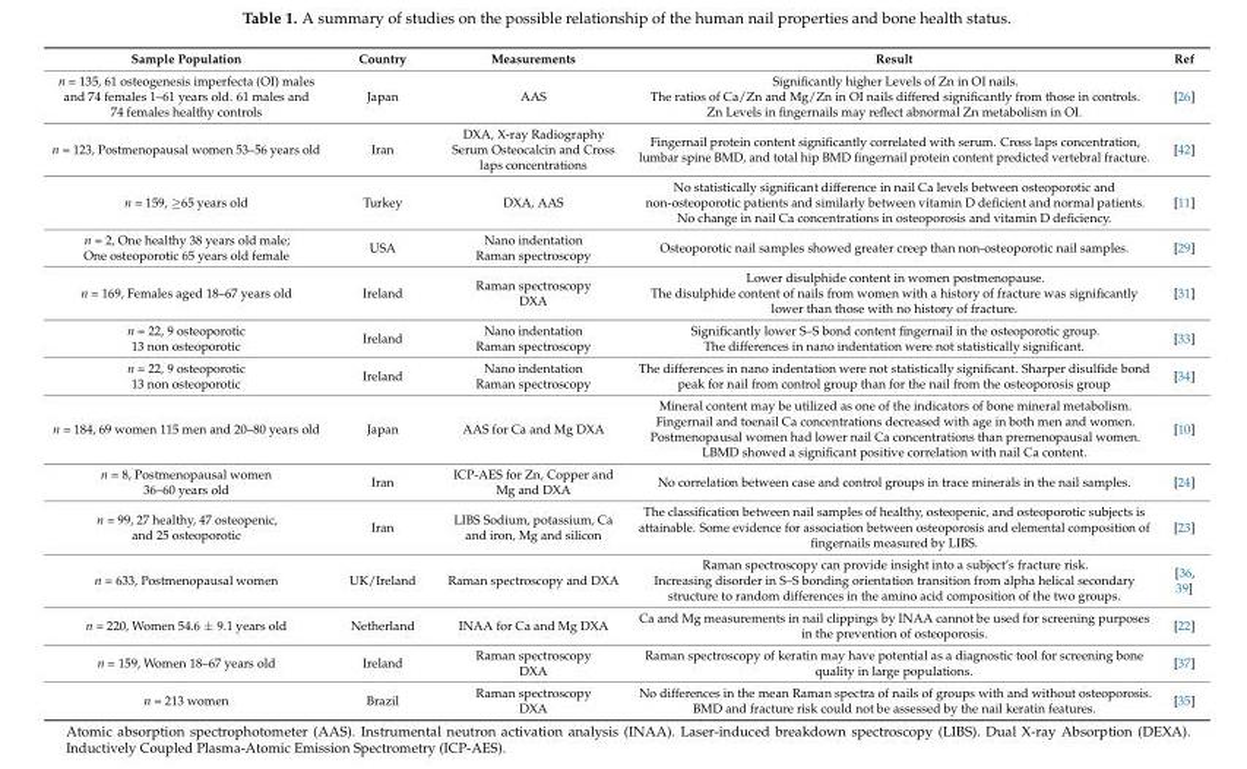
<table><thead><tr><td>Sample Population</td><td>Country</td><td>Measurements</td><td>Result</td><td>Ref</td></tr></thead><tbody><tr><td>n = 135, 61 osteogenesis imperfecta (OI) males and 74 females 1–61 years old. 61 males and 74 females healthy controls</td><td>Japan</td><td>AAS</td><td>Significantly higher Levels of Zn in OI nails. The ratios of Ca/Zn and Mg/Zn in OI nails differed significantly from those in controls. Zn Levels in fingernails may reflect abnormal Zn metabolism in OI.</td><td>[26]</td></tr><tr><td>n = 123, Postmenopausal women 53–56 years old</td><td>Iran</td><td>DXA, X-ray Radiography Serum Osteocalcin and Cross laps concentrations</td><td>Fingernail protein content significantly correlated with serum. Cross laps concentration, lumbar spine BMD, and total hip BMD fingernail protein content predicted vertebral fracture.</td><td>[42]</td></tr><tr><td>n = 159, ≥65 years old</td><td>Turkey</td><td>DXA, AAS</td><td>No statistically significant difference in nail Ca levels between osteoporotic and non-osteoporotic patients and similarly between vitamin D deficient and normal patients. No change in nail Ca concentrations in osteoporosis and vitamin D deficiency.</td><td>[11]</td></tr><tr><td>n = 2, One healthy 38 years old male; One osteoporotic 65 years old female</td><td>USA</td><td>Nano indentation Raman spectroscopy</td><td>Osteoporotic nail samples showed greater creep than non-osteoporotic nail samples.</td><td>[29]</td></tr><tr><td>n = 169, Females aged 18–67 years old</td><td>Ireland</td><td>Raman spectroscopy DXA</td><td>Lower disulphide content in women postmenopause. The disulphide content of nails from women with a history of fracture was significantly lower than those with no history of fracture.</td><td>[31]</td></tr><tr><td>n = 22, 9 osteoporotic 13 non osteoporotic</td><td>Ireland</td><td>Nano indentation Raman spectroscopy</td><td>Significantly lower S–S bond content fingernail in the osteoporotic group. The differences in nano indentation were not statistically significant.</td><td>[33]</td></tr><tr><td>n = 22, 9 osteoporotic 13 non osteoporotic</td><td>Ireland</td><td>Nano indentation Raman spectroscopy</td><td>The differences in nano indentation were not statistically significant. Sharper disulfide bond peak for nail from control group than for the nail from the osteoporosis group</td><td>[34]</td></tr><tr><td>n = 184, 69 women 115 men and 20–80 years old</td><td>Japan</td><td>AAS for Ca and Mg DXA</td><td>Mineral content may be utilized as one of the indicators of bone mineral metabolism. Fingernail and toenail Ca concentrations decreased with age in both men and women. Postmenopausal women had lower nail Ca concentrations than premenopausal women. LBMD showed a significant positive correlation with nail Ca content.</td><td>[10]</td></tr><tr><td>n = 8, Postmenopausal women 36–60 years old</td><td>Iran</td><td>ICP-AES for Zn, Copper and Mg and DXA</td><td>No correlation between case and control groups in trace minerals in the nail samples.</td><td>[24]</td></tr><tr><td>n = 99, 27 healthy, 47 osteopenic, and 25 osteoporotic</td><td>Iran</td><td>LIBS Sodium, potassium, Ca and iron, Mg and silicon</td><td>The classification between nail samples of healthy, osteopenic, and osteoporotic subjects is attainable. Some evidence for association between osteoporosis and elemental composition of fingernails measured by LIBS.</td><td>[23]</td></tr><tr><td>n = 633, Postmenopausal women</td><td>UK/Ireland</td><td>Raman spectroscopy and DXA</td><td>Raman spectroscopy can provide insight into a subject’s fracture risk. Increasing disorder in S–S bonding orientation transition from alpha helical secondary structure to random differences in the amino acid composition of the two groups.</td><td>[36, 39]</td></tr><tr><td>n = 220, Women 54.6 ± 9.1 years old</td><td>Netherland</td><td>INAA for Ca and Mg DXA</td><td>Ca and Mg measurements in nail clippings by INAA cannot be used for screening purposes in the prevention of osteoporosis.</td><td>[22]</td></tr><tr><td>n = 159, Women 18–67 years old</td><td>Ireland</td><td>Raman spectroscopy DXA</td><td>Raman spectroscopy of keratin may have potential as a diagnostic tool for screening bone quality in large populations.</td><td>[37]</td></tr><tr><td>n = 213 women</td><td>Brazil</td><td>Raman spectroscopy DXA</td><td>No differences in the mean Raman spectra of nails of groups with and without osteoporosis. BMD and fracture risk could not be assessed by the nail keratin features.</td><td>[35]</td></tr></tbody></table>